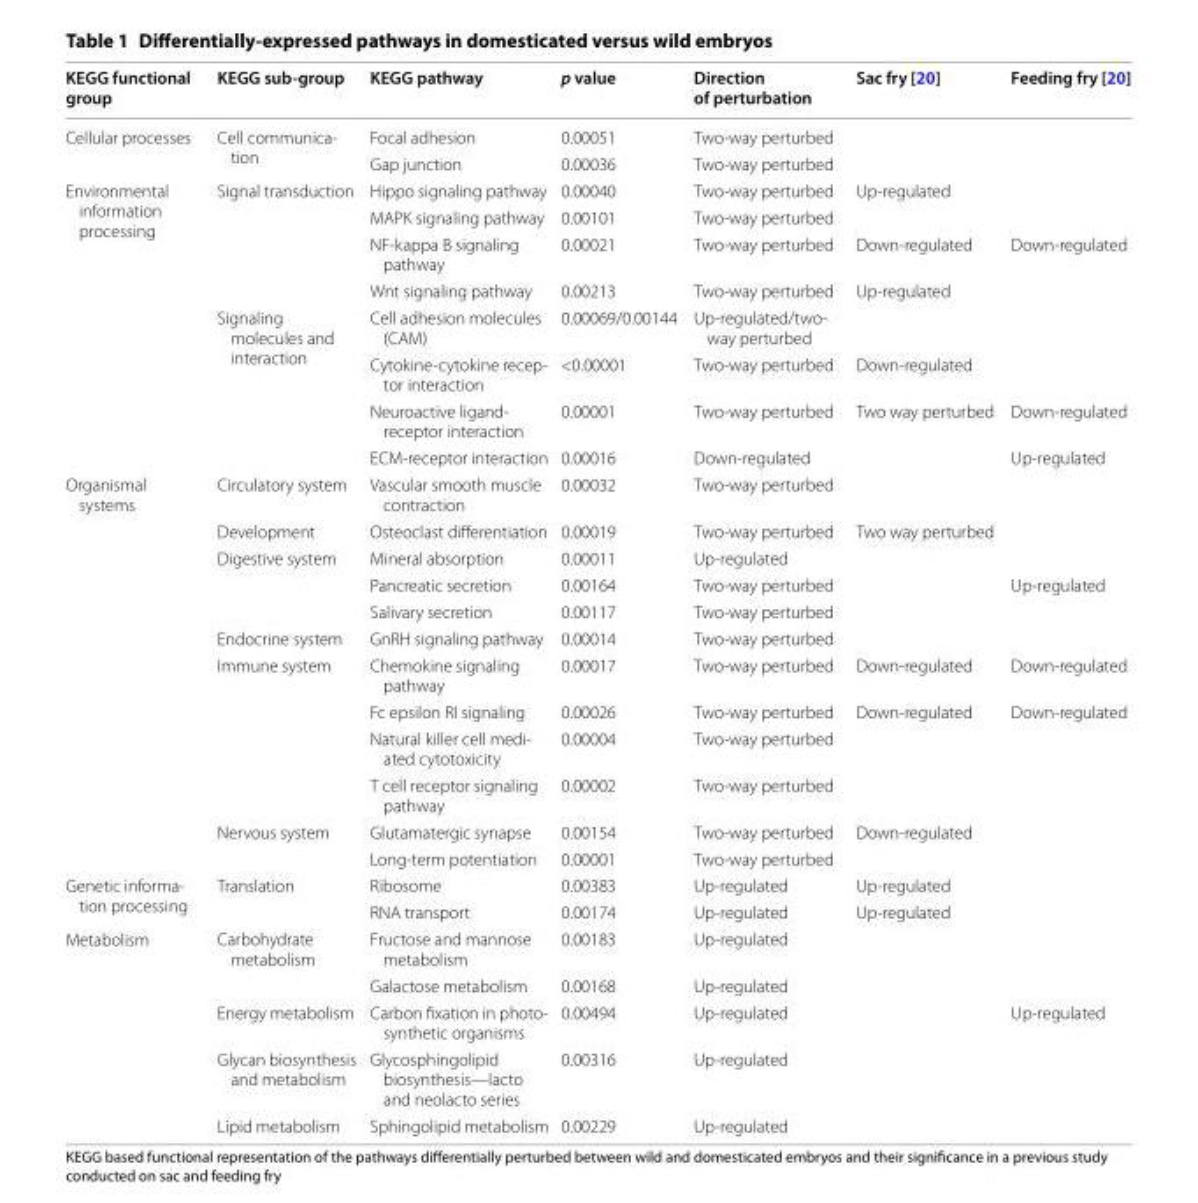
<table><thead><tr><td>KEGG functional group</td><td>KEGG sub-group</td><td>KEGG pathway</td><td>p value</td><td>Direction of perturbation</td><td>Sac fry [20]</td><td>Feeding fry [20]</td></tr></thead><tbody><tr><td rowspan="2">Cellular processes</td><td rowspan="2">Cell communica- tion</td><td>Focal adhesion</td><td>0.00051</td><td>Two-way perturbed</td><td></td><td></td></tr><tr><td>Gap junction</td><td>0.00036</td><td>Two-way perturbed</td><td></td><td></td></tr><tr><td rowspan="8">Environmental information processing</td><td rowspan="4">Signal transduction</td><td>Hippo signaling pathway</td><td>0.00040</td><td>Two-way perturbed</td><td>Up-regulated</td><td></td></tr><tr><td>MAPK signaling pathway</td><td>0.00101</td><td>Two-way perturbed</td><td></td><td></td></tr><tr><td>NF-kappa B signaling pathway</td><td>0.00021</td><td>Two-way perturbed</td><td>Down-regulated</td><td>Down-regulated</td></tr><tr><td>Wnt signaling pathway</td><td>0.00213</td><td>Two-way perturbed</td><td>Up-regulated</td><td></td></tr><tr><td rowspan="4">Signaling molecules and interaction</td><td>Cell adhesion molecules (CAM)</td><td>0.00069/0.00144</td><td>Up-regulated/two- way perturbed</td><td></td><td></td></tr><tr><td>Cytokine-cytokine recep- tor interaction</td><td>&lt;0.00001</td><td>Two-way perturbed</td><td>Down-regulated</td><td></td></tr><tr><td>Neuroactive ligand- receptor interaction</td><td>0.00001</td><td>Two-way perturbed</td><td>Two way perturbed</td><td>Down-regulated</td></tr><tr><td>ECM-receptor interaction</td><td>0.00016</td><td>Down-regulated</td><td></td><td>Up-regulated</td></tr><tr><td rowspan="12">Organismal systems</td><td>Circulatory system</td><td>Vascular smooth muscle contraction</td><td>0.00032</td><td>Two-way perturbed</td><td></td><td></td></tr><tr><td>Development</td><td>Osteoclast differentiation</td><td>0.00019</td><td>Two-way perturbed</td><td>Two way perturbed</td><td></td></tr><tr><td rowspan="3">Digestive system</td><td>Mineral absorption</td><td>0.00011</td><td>Up-regulated</td><td></td><td></td></tr><tr><td>Pancreatic secretion</td><td>0.00164</td><td>Two-way perturbed</td><td></td><td>Up-regulated</td></tr><tr><td>Salivary secretion</td><td>0.00117</td><td>Two-way perturbed</td><td></td><td></td></tr><tr><td>Endocrine system</td><td>GnRH signaling pathway</td><td>0.00014</td><td>Two-way perturbed</td><td></td><td></td></tr><tr><td rowspan="4">Immune system</td><td>Chemokine signaling pathway</td><td>0.00017</td><td>Two-way perturbed</td><td>Down-regulated</td><td>Down-regulated</td></tr><tr><td>Fc epsilon RI signaling</td><td>0.00026</td><td>Two-way perturbed</td><td>Down-regulated</td><td>Down-regulated</td></tr><tr><td>Natural killer cell medi- ated cytotoxicity</td><td>0.00004</td><td>Two-way perturbed</td><td></td><td></td></tr><tr><td>T cell receptor signaling pathway</td><td>0.00002</td><td>Two-way perturbed</td><td></td><td></td></tr><tr><td rowspan="2">Nervous system</td><td>Glutamatergic synapse</td><td>0.00154</td><td>Two-way perturbed</td><td>Down-regulated</td><td></td></tr><tr><td>Long-term potentiation</td><td>0.00001</td><td>Two-way perturbed</td><td></td><td></td></tr><tr><td rowspan="2">Genetic informa- tion processing</td><td rowspan="2">Translation</td><td>Ribosome</td><td>0.00383</td><td>Up-regulated</td><td>Up-regulated</td><td></td></tr><tr><td>RNA transport</td><td>0.00174</td><td>Up-regulated</td><td>Up-regulated</td><td></td></tr><tr><td rowspan="5">Metabolism</td><td rowspan="2">Carbohydrate metabolism</td><td>Fructose and mannose metabolism</td><td>0.00183</td><td>Up-regulated</td><td></td><td></td></tr><tr><td>Galactose metabolism</td><td>0.00168</td><td>Up-regulated</td><td></td><td></td></tr><tr><td>Energy metabolism</td><td>Carbon fixation in photo- synthetic organisms</td><td>0.00494</td><td>Up-regulated</td><td></td><td>Up-regulated</td></tr><tr><td>Glycan biosynthesis and metabolism</td><td>Glycosphingolipid biosynthesis—lacto and neolacto series</td><td>0.00316</td><td>Up-regulated</td><td></td><td></td></tr><tr><td>Lipid metabolism</td><td>Sphingolipid metabolism</td><td>0.00229</td><td>Up-regulated</td><td></td><td></td></tr></tbody></table>